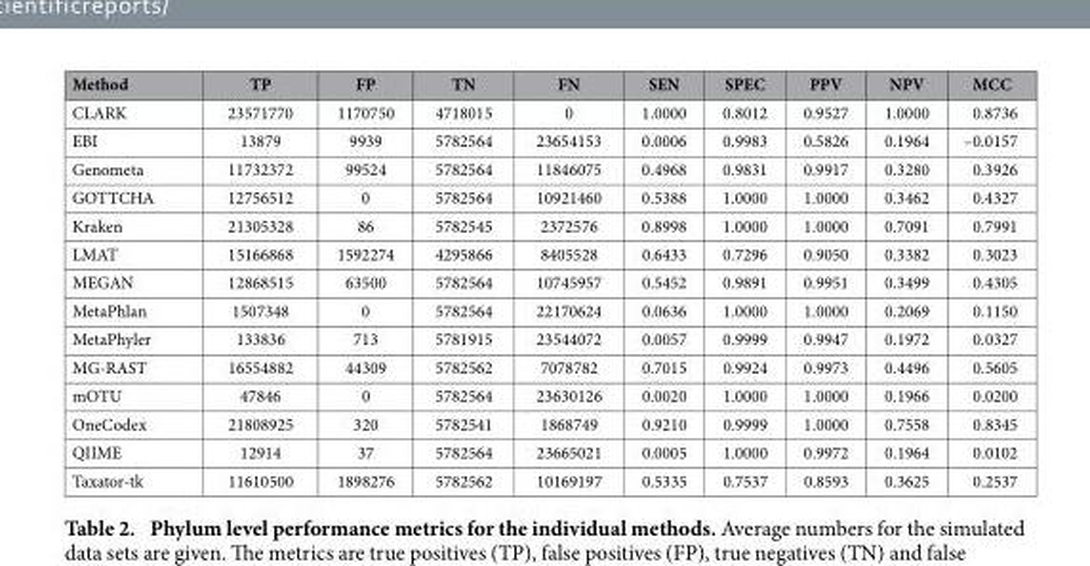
<table><thead><tr><td>Method</td><td>TP</td><td>FP</td><td>TN</td><td>FN</td><td>SEN</td><td>SPEC</td><td>PPV</td><td>NPV</td><td>MCC</td></tr></thead><tbody><tr><td>CLARK</td><td>23571770</td><td>1170750</td><td>4718015</td><td>0</td><td>1.0000</td><td>0.8012</td><td>0.9527</td><td>1.0000</td><td>0.8736</td></tr><tr><td>EBI</td><td>13879</td><td>9939</td><td>5782564</td><td>23654153</td><td>0.0006</td><td>0.9983</td><td>0.5826</td><td>0.1964</td><td>–0.0157</td></tr><tr><td>Genometa</td><td>11732372</td><td>99524</td><td>5782564</td><td>11846075</td><td>0.4968</td><td>0.9831</td><td>0.9917</td><td>0.3280</td><td>0.3926</td></tr><tr><td>GOTTCHA</td><td>12756512</td><td>0</td><td>5782564</td><td>10921460</td><td>0.5388</td><td>1.0000</td><td>1.0000</td><td>0.3462</td><td>0.4327</td></tr><tr><td>Kraken</td><td>21305328</td><td>86</td><td>5782545</td><td>2372576</td><td>0.8998</td><td>1.0000</td><td>1.0000</td><td>0.7091</td><td>0.7991</td></tr><tr><td>LMAT</td><td>15166868</td><td>1592274</td><td>4295866</td><td>8405528</td><td>0.6433</td><td>0.7296</td><td>0.9050</td><td>0.3382</td><td>0.3023</td></tr><tr><td>MEGAN</td><td>12868515</td><td>63500</td><td>5782564</td><td>10745957</td><td>0.5452</td><td>0.9891</td><td>0.9951</td><td>0.3499</td><td>0.4305</td></tr><tr><td>MetaPhlan</td><td>1507348</td><td>0</td><td>5782564</td><td>22170624</td><td>0.0636</td><td>1.0000</td><td>1.0000</td><td>0.2069</td><td>0.1150</td></tr><tr><td>MetaPhyler</td><td>133836</td><td>713</td><td>5781915</td><td>23544072</td><td>0.0057</td><td>0.9999</td><td>0.9947</td><td>0.1972</td><td>0.0327</td></tr><tr><td>MG-RAST</td><td>16554882</td><td>44309</td><td>5782562</td><td>7078782</td><td>0.7015</td><td>0.9924</td><td>0.9973</td><td>0.4496</td><td>0.5605</td></tr><tr><td>mOTU</td><td>47846</td><td>0</td><td>5782564</td><td>23630126</td><td>0.0020</td><td>1.0000</td><td>1.0000</td><td>0.1966</td><td>0.0200</td></tr><tr><td>OneCodex</td><td>21808925</td><td>320</td><td>5782541</td><td>1868749</td><td>0.9210</td><td>0.9999</td><td>1.0000</td><td>0.7558</td><td>0.8345</td></tr><tr><td>QIIME</td><td>12914</td><td>37</td><td>5782564</td><td>23665021</td><td>0.0005</td><td>1.0000</td><td>0.9972</td><td>0.1964</td><td>0.0102</td></tr><tr><td>Taxator-tk</td><td>11610500</td><td>1898276</td><td>5782562</td><td>10169197</td><td>0.5335</td><td>0.7537</td><td>0.8593</td><td>0.3625</td><td>0.2537</td></tr></tbody></table>